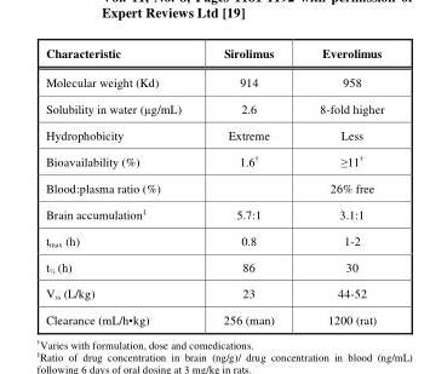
<table><thead><tr><td>Characteristic</td><td>Sirolimus</td><td>Everolimus</td></tr></thead><tbody><tr><td>Molecular weight (Kd)</td><td>914</td><td>958</td></tr><tr><td>Solubility in water (µg/mL)</td><td>2.6</td><td>8-fold higher</td></tr><tr><td>Hydrophobicity</td><td>Extreme</td><td>Less</td></tr><tr><td>Bioavailability (%)</td><td>1.6†</td><td>≥11†</td></tr><tr><td>Blood:plasma ratio (%)</td><td></td><td>26% free</td></tr><tr><td>Brain accumulation‡</td><td>5.7:1</td><td>3.1:1</td></tr><tr><td>t<sub>max</sub> (h)</td><td>0.8</td><td>1-2</td></tr><tr><td>t<sub>½</sub> (h)</td><td>86</td><td>30</td></tr><tr><td>V<sub>ss</sub> (L/kg)</td><td>23</td><td>44-52</td></tr><tr><td>Clearance (mL/h•kg)</td><td>256 (man)</td><td>1200 (rat)</td></tr></tbody></table>